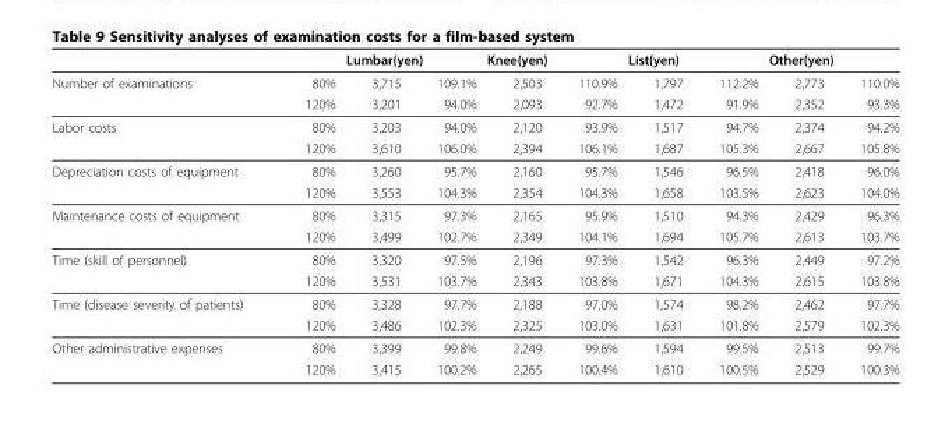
<table><thead><tr><td rowspan="2">Number of examinations</td><td rowspan="2">80%</td><td colspan="2">Lumbar(yen)</td><td colspan="2">Knee(yen)</td><td colspan="2">List(yen)</td><td colspan="2">Other(yen)</td></tr><tr><td>3,715</td><td>109.1%</td><td>2,503</td><td>110.9%</td><td>1,797</td><td>112.2%</td><td>2,773</td><td>110.0%</td></tr></thead><tbody><tr><td></td><td>120%</td><td>3,201</td><td>94.0%</td><td>2,093</td><td>92.7%</td><td>1,472</td><td>91.9%</td><td>2,352</td><td>93.3%</td></tr><tr><td rowspan="2">Labor costs</td><td>80%</td><td>3,203</td><td>94.0%</td><td>2,120</td><td>93.9%</td><td>1,517</td><td>94.7%</td><td>2,374</td><td>94.2%</td></tr><tr><td>120%</td><td>3,610</td><td>106.0%</td><td>2,394</td><td>106.1%</td><td>1,687</td><td>105.3%</td><td>2,667</td><td>105.8%</td></tr><tr><td rowspan="2">Depreciation costs of equipment</td><td>80%</td><td>3,260</td><td>95.7%</td><td>2,160</td><td>95.7%</td><td>1,546</td><td>96.5%</td><td>2,418</td><td>96.0%</td></tr><tr><td>120%</td><td>3,553</td><td>104.3%</td><td>2,354</td><td>104.3%</td><td>1,658</td><td>103.5%</td><td>2,623</td><td>104.0%</td></tr><tr><td rowspan="2">Maintenance costs of equipment</td><td>80%</td><td>3,315</td><td>97.3%</td><td>2,165</td><td>95.9%</td><td>1,510</td><td>94.3%</td><td>2,429</td><td>96.3%</td></tr><tr><td>120%</td><td>3,499</td><td>102.7%</td><td>2,349</td><td>104.1%</td><td>1,694</td><td>105.7%</td><td>2,613</td><td>103.7%</td></tr><tr><td rowspan="2">Time (skill of personnel)</td><td>80%</td><td>3,320</td><td>97.5%</td><td>2,196</td><td>97.3%</td><td>1,542</td><td>96.3%</td><td>2,449</td><td>97.2%</td></tr><tr><td>120%</td><td>3,531</td><td>103.7%</td><td>2,343</td><td>103.8%</td><td>1,671</td><td>104.3%</td><td>2,615</td><td>103.8%</td></tr><tr><td rowspan="2">Time (disease severity of patients)</td><td>80%</td><td>3,328</td><td>97.7%</td><td>2,188</td><td>97.0%</td><td>1,574</td><td>98.2%</td><td>2,462</td><td>97.7%</td></tr><tr><td>120%</td><td>3,486</td><td>102.3%</td><td>2,325</td><td>103.0%</td><td>1,631</td><td>101.8%</td><td>2,579</td><td>102.3%</td></tr><tr><td rowspan="2">Other administrative expenses</td><td>80%</td><td>3,399</td><td>99.8%</td><td>2,249</td><td>99.6%</td><td>1,594</td><td>99.5%</td><td>2,513</td><td>99.7%</td></tr><tr><td>120%</td><td>3,415</td><td>100.2%</td><td>2,265</td><td>100.4%</td><td>1,610</td><td>100.5%</td><td>2,529</td><td>100.3%</td></tr></tbody></table>